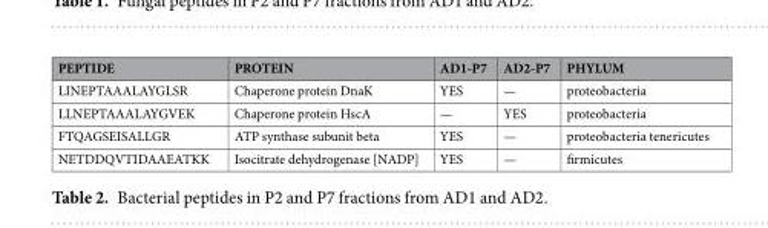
<table><thead><tr><td>PEPTIDE</td><td>PROTEIN</td><td>AD1-P7</td><td>AD2-P7</td><td>PHYLUM</td></tr></thead><tbody><tr><td>LINEPTAAALAYGLSR</td><td>Chaperone protein DnaK</td><td>YES</td><td>—</td><td>proteobacteria</td></tr><tr><td>LLNEPTAAALAYGVEK</td><td>Chaperone protein HscA</td><td>—</td><td>YES</td><td>proteobacteria</td></tr><tr><td>FTQAGSEISALLGR</td><td>ATP synthase subunit beta</td><td>YES</td><td>—</td><td>proteobacteria tenericutes</td></tr><tr><td>NETDDQVTIDAAEATKK</td><td>Isocitrate dehydrogenase [NADP]</td><td>YES</td><td>—</td><td>firmicutes</td></tr></tbody></table>